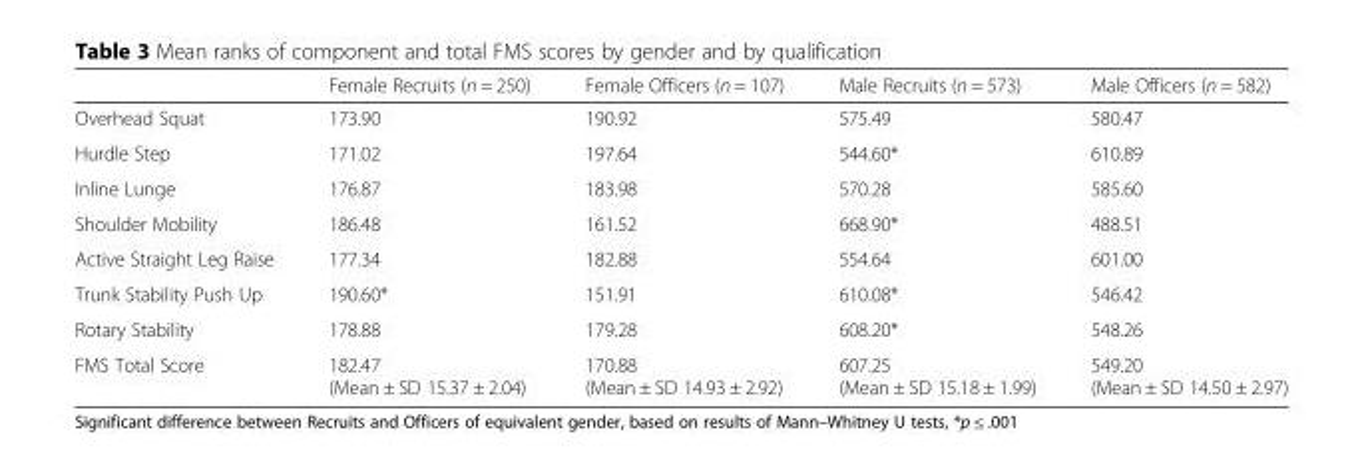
<table><thead><tr><td></td><td>Female Recruits (n = 250)</td><td>Female Officers (n = 107)</td><td>Male Recruits (n = 573)</td><td>Male Officers (n = 582)</td></tr></thead><tbody><tr><td>Overhead Squat</td><td>173.90</td><td>190.92</td><td>575.49</td><td>580.47</td></tr><tr><td>Hurdle Step</td><td>171.02</td><td>197.64</td><td>544.60*</td><td>610.89</td></tr><tr><td>Inline Lunge</td><td>176.87</td><td>183.98</td><td>570.28</td><td>585.60</td></tr><tr><td>Shoulder Mobility</td><td>186.48</td><td>161.52</td><td>668.90*</td><td>488.51</td></tr><tr><td>Active Straight Leg Raise</td><td>177.34</td><td>182.88</td><td>554.64</td><td>601.00</td></tr><tr><td>Trunk Stability Push Up</td><td>190.60*</td><td>151.91</td><td>610.08*</td><td>546.42</td></tr><tr><td>Rotary Stability</td><td>178.88</td><td>179.28</td><td>608.20*</td><td>548.26</td></tr><tr><td>FMS Total Score</td><td>182.47 (Mean ± SD 15.37 ± 2.04)</td><td>170.88 (Mean ± SD 14.93 ± 2.92)</td><td>607.25 (Mean ± SD 15.18 ± 1.99)</td><td>549.20 (Mean ± SD 14.50 ± 2.97)</td></tr></tbody></table>